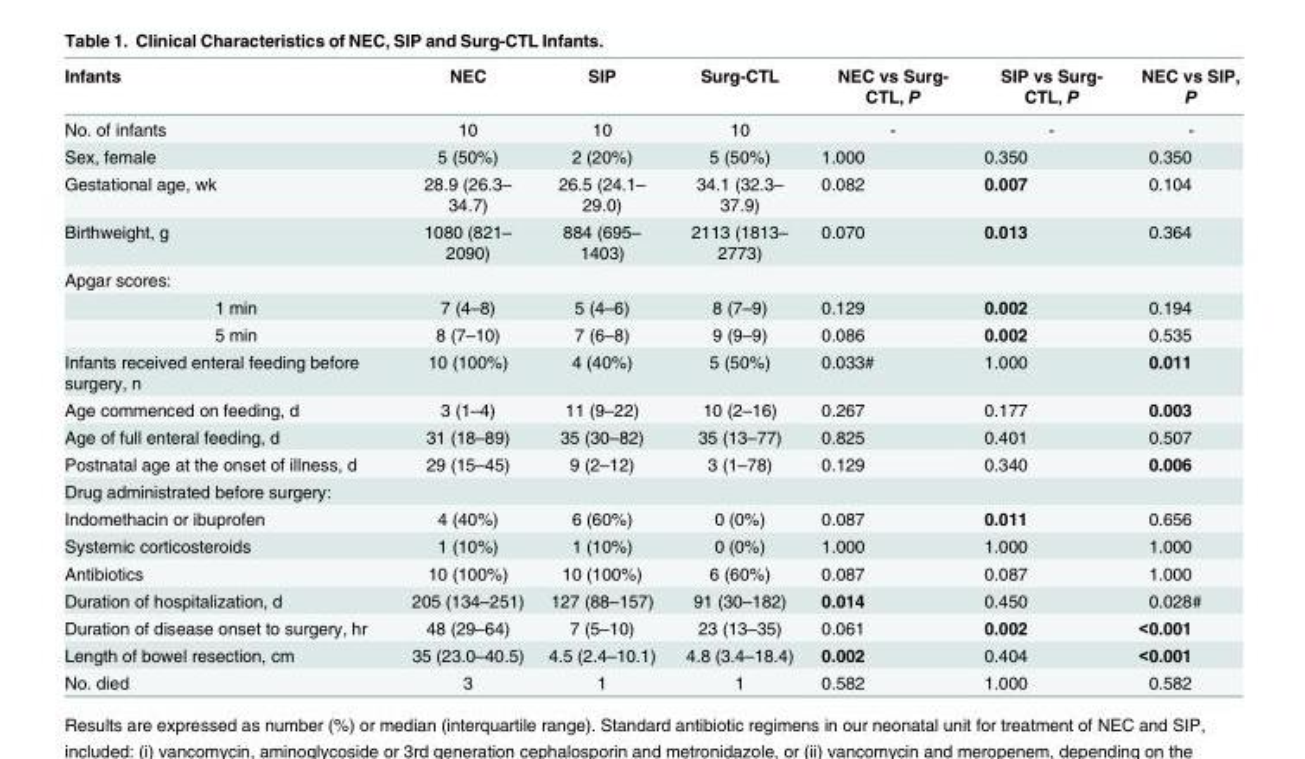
<table><thead><tr><td>Infants</td><td>NEC</td><td>SIP</td><td>Surg-CTL</td><td>NEC vs Surg- CTL, P</td><td>SIP vs Surg- CTL, P</td><td>NEC vs SIP, P</td></tr></thead><tbody><tr><td>No. of infants</td><td>10</td><td>10</td><td>10</td><td>-</td><td>-</td><td>-</td></tr><tr><td>Sex, female</td><td>5 (50%)</td><td>2 (20%)</td><td>5 (50%)</td><td>1.000</td><td>0.350</td><td>0.350</td></tr><tr><td>Gestational age, wk</td><td>28.9 (26.3– 34.7)</td><td>26.5 (24.1– 29.0)</td><td>34.1 (32.3– 37.9)</td><td>0.082</td><td>0.007</td><td>0.104</td></tr><tr><td>Birthweight, g</td><td>1080 (821– 2090)</td><td>884 (695– 1403)</td><td>2113 (1813– 2773)</td><td>0.070</td><td>0.013</td><td>0.364</td></tr><tr><td colspan="7">Apgar scores:</td></tr><tr><td>1 min</td><td>7 (4–8)</td><td>5 (4–6)</td><td>8 (7–9)</td><td>0.129</td><td>0.002</td><td>0.194</td></tr><tr><td>5 min</td><td>8 (7–10)</td><td>7 (6–8)</td><td>9 (9–9)</td><td>0.086</td><td>0.002</td><td>0.535</td></tr><tr><td>Infants received enteral feeding before surgery, n</td><td>10 (100%)</td><td>4 (40%)</td><td>5 (50%)</td><td>0.033#</td><td>1.000</td><td>0.011</td></tr><tr><td>Age commenced on feeding, d</td><td>3 (1–4)</td><td>11 (9–22)</td><td>10 (2–16)</td><td>0.267</td><td>0.177</td><td>0.003</td></tr><tr><td>Age of full enteral feeding, d</td><td>31 (18–89)</td><td>35 (30–82)</td><td>35 (13–77)</td><td>0.825</td><td>0.401</td><td>0.507</td></tr><tr><td>Postnatal age at the onset of illness, d</td><td>29 (15–45)</td><td>9 (2–12)</td><td>3 (1–78)</td><td>0.129</td><td>0.340</td><td>0.006</td></tr><tr><td colspan="7">Drug administrated before surgery:</td></tr><tr><td>Indomethacin or ibuprofen</td><td>4 (40%)</td><td>6 (60%)</td><td>0 (0%)</td><td>0.087</td><td>0.011</td><td>0.656</td></tr><tr><td>Systemic corticosteroids</td><td>1 (10%)</td><td>1 (10%)</td><td>0 (0%)</td><td>1.000</td><td>1.000</td><td>1.000</td></tr><tr><td>Antibiotics</td><td>10 (100%)</td><td>10 (100%)</td><td>6 (60%)</td><td>0.087</td><td>0.087</td><td>1.000</td></tr><tr><td>Duration of hospitalization, d</td><td>205 (134–251)</td><td>127 (88–157)</td><td>91 (30–182)</td><td>0.014</td><td>0.450</td><td>0.028#</td></tr><tr><td>Duration of disease onset to surgery, hr</td><td>48 (29–64)</td><td>7 (5–10)</td><td>23 (13–35)</td><td>0.061</td><td>0.002</td><td>&lt;0.001</td></tr><tr><td>Length of bowel resection, cm</td><td>35 (23.0–40.5)</td><td>4.5 (2.4–10.1)</td><td>4.8 (3.4–18.4)</td><td>0.002</td><td>0.404</td><td>&lt;0.001</td></tr><tr><td>No. died</td><td>3</td><td>1</td><td>1</td><td>0.582</td><td>1.000</td><td>0.582</td></tr></tbody></table>